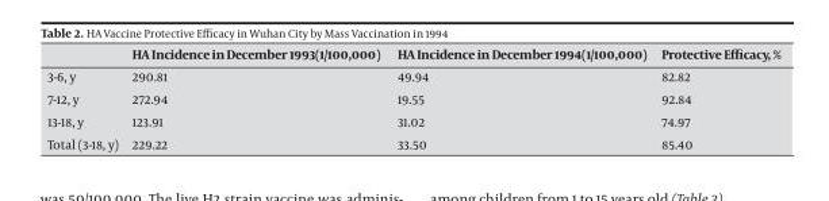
<table><thead><tr><td></td><td>HA Incidence in December 1993(1/100,000)</td><td>HA Incidence in December 1994(1/100,000)</td><td>Protective Efficacy, %</td></tr></thead><tbody><tr><td>3-6, y</td><td>290.81</td><td>49.94</td><td>82.82</td></tr><tr><td>7-12, y</td><td>272.94</td><td>19.55</td><td>92.84</td></tr><tr><td>13-18, y</td><td>123.91</td><td>31.02</td><td>74.97</td></tr><tr><td>Total (3-18, y)</td><td>229.22</td><td>33.50</td><td>85.40</td></tr></tbody></table>